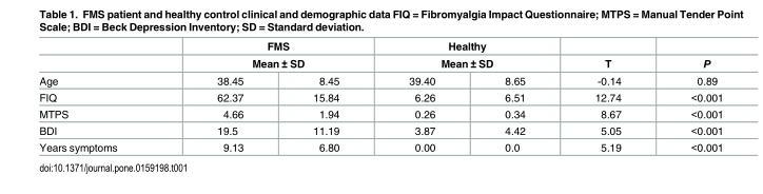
<table><thead><tr><td rowspan="3">Age</td><td rowspan="2" colspan="2">FMS Mean ± SD</td><td rowspan="2" colspan="2">Healthy Mean ± SD</td><td rowspan="3">T -0.14</td><td rowspan="3">P 0.89</td></tr><tr></tr><tr><td>38.45</td><td>8.45</td><td>39.40</td><td>8.65</td></tr></thead><tbody><tr><td>FIQ</td><td>62.37</td><td>15.84</td><td>6.26</td><td>6.51</td><td>12.74</td><td>&lt;0.001</td></tr><tr><td>MTPS</td><td>4.66</td><td>1.94</td><td>0.26</td><td>0.34</td><td>8.67</td><td>&lt;0.001</td></tr><tr><td>BDI</td><td>19.5</td><td>11.19</td><td>3.87</td><td>4.42</td><td>5.05</td><td>&lt;0.001</td></tr><tr><td>Years symptoms</td><td>9.13</td><td>6.80</td><td>0.00</td><td>0.0</td><td>5.19</td><td>&lt;0.001</td></tr></tbody></table>